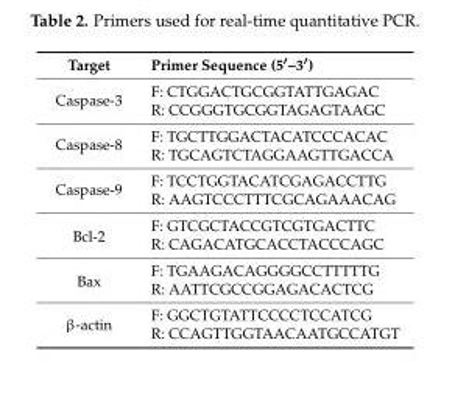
<table><thead><tr><td>Target</td><td>Primer Sequence (5′–3′)</td></tr></thead><tbody><tr><td rowspan="2">Caspase-3</td><td>F: CTGGACTGCGGTATTGAGAC</td></tr><tr><td>R: CCGGGTGCGGTAGAGTAAGC</td></tr><tr><td rowspan="2">Caspase-8</td><td>F: TGCTTGGACTACATCCCACAC</td></tr><tr><td>R: TGCAGTCTAGGAAGTTGACCA</td></tr><tr><td rowspan="2">Caspase-9</td><td>F: TCCTGGTACATCGAGACCTTG</td></tr><tr><td>R: AAGTCCCTTTCGCAGAAACAG</td></tr><tr><td rowspan="2">Bcl-2</td><td>F: GTCGCTACCGTCGTGACTTC</td></tr><tr><td>R: CAGACATGCACCTACCCAGC</td></tr><tr><td rowspan="2">Bax</td><td>F: TGAAGACAGGGGCCTTTTTG</td></tr><tr><td>R: AATTCGCCGGAGACACTCG</td></tr><tr><td rowspan="2">β-actin</td><td>F: GGCTGTATTCCCCTCCATCG</td></tr><tr><td>R: CCAGTTGGTAACAATGCCATGT</td></tr></tbody></table>